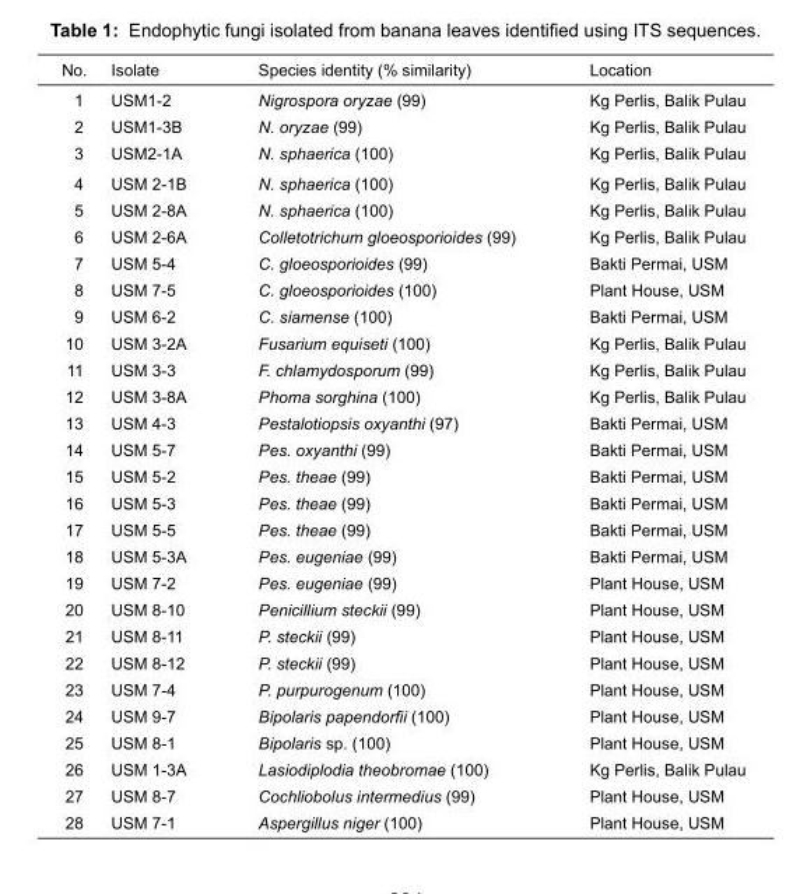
<table><thead><tr><td>No.</td><td>Isolate</td><td>Species identity (% similarity)</td><td>Location</td></tr></thead><tbody><tr><td>1</td><td>USM1-2</td><td>Nigrospora oryzae (99)</td><td>Kg Perlis, Balik Pulau</td></tr><tr><td>2</td><td>USM1-3B</td><td>N. oryzae (99)</td><td>Kg Perlis, Balik Pulau</td></tr><tr><td>3</td><td>USM2-1A</td><td>N. sphaerica (100)</td><td>Kg Perlis, Balik Pulau</td></tr><tr><td>4</td><td>USM 2-1B</td><td>N. sphaerica (100)</td><td>Kg Perlis, Balik Pulau</td></tr><tr><td>5</td><td>USM 2-8A</td><td>N. sphaerica (100)</td><td>Kg Perlis, Balik Pulau</td></tr><tr><td>6</td><td>USM 2-6A</td><td>Colletotrichum gloeosporioides (99)</td><td>Kg Perlis, Balik Pulau</td></tr><tr><td>7</td><td>USM 5-4</td><td>C. gloeosporioides (99)</td><td>Bakti Permai, USM</td></tr><tr><td>8</td><td>USM 7-5</td><td>C. gloeosporioides (100)</td><td>Plant House, USM</td></tr><tr><td>9</td><td>USM 6-2</td><td>C. siamense (100)</td><td>Bakti Permai, USM</td></tr><tr><td>10</td><td>USM 3-2A</td><td>Fusarium equiseti (100)</td><td>Kg Perlis, Balik Pulau</td></tr><tr><td>11</td><td>USM 3-3</td><td>F. chlamydosporum (99)</td><td>Kg Perlis, Balik Pulau</td></tr><tr><td>12</td><td>USM 3-8A</td><td>Phoma sorghina (100)</td><td>Kg Perlis, Balik Pulau</td></tr><tr><td>13</td><td>USM 4-3</td><td>Pestalotiopsis oxyanthi (97)</td><td>Bakti Permai, USM</td></tr><tr><td>14</td><td>USM 5-7</td><td>Pes. oxyanthi (99)</td><td>Bakti Permai, USM</td></tr><tr><td>15</td><td>USM 5-2</td><td>Pes. theae (99)</td><td>Bakti Permai, USM</td></tr><tr><td>16</td><td>USM 5-3</td><td>Pes. theae (99)</td><td>Bakti Permai, USM</td></tr><tr><td>17</td><td>USM 5-5</td><td>Pes. theae (99)</td><td>Bakti Permai, USM</td></tr><tr><td>18</td><td>USM 5-3A</td><td>Pes. eugeniae (99)</td><td>Bakti Permai, USM</td></tr><tr><td>19</td><td>USM 7-2</td><td>Pes. eugeniae (99)</td><td>Plant House, USM</td></tr><tr><td>20</td><td>USM 8-10</td><td>Penicillium steckii (99)</td><td>Plant House, USM</td></tr><tr><td>21</td><td>USM 8-11</td><td>P. steckii (99)</td><td>Plant House, USM</td></tr><tr><td>22</td><td>USM 8-12</td><td>P. steckii (99)</td><td>Plant House, USM</td></tr><tr><td>23</td><td>USM 7-4</td><td>P. purpurogenum (100)</td><td>Plant House, USM</td></tr><tr><td>24</td><td>USM 9-7</td><td>Bipolaris papendorfii (100)</td><td>Plant House, USM</td></tr><tr><td>25</td><td>USM 8-1</td><td>Bipolaris sp. (100)</td><td>Plant House, USM</td></tr><tr><td>26</td><td>USM 1-3A</td><td>Lasiodiplodia theobromae (100)</td><td>Kg Perlis, Balik Pulau</td></tr><tr><td>27</td><td>USM 8-7</td><td>Cochliobolus intermedius (99)</td><td>Plant House, USM</td></tr><tr><td>28</td><td>USM 7-1</td><td>Aspergillus niger (100)</td><td>Plant House, USM</td></tr></tbody></table>